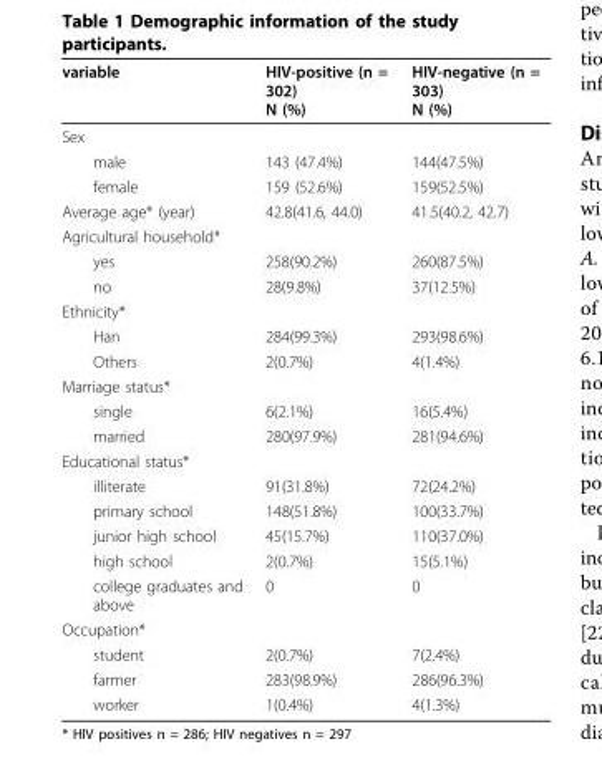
<table><thead><tr><td>variable</td><td>HIV-positive (n = 302) N (%)</td><td>HIV-negative (n = 303) N (%)</td></tr></thead><tbody><tr><td colspan="3">Sex</td></tr><tr><td>male</td><td>143 (47.4%)</td><td>144(47.5%)</td></tr><tr><td>female</td><td>159 (52.6%)</td><td>159(52.5%)</td></tr><tr><td>Average age* (year)</td><td>42.8(41.6, 44.0)</td><td>41.5(40.2, 42.7)</td></tr><tr><td colspan="3">Agricultural household*</td></tr><tr><td>yes</td><td>258(90.2%)</td><td>260(87.5%)</td></tr><tr><td>no</td><td>28(9.8%)</td><td>37(12.5%)</td></tr><tr><td colspan="3">Ethnicity*</td></tr><tr><td>Han</td><td>284(99.3%)</td><td>293(98.6%)</td></tr><tr><td>Others</td><td>2(0.7%)</td><td>4(1.4%)</td></tr><tr><td colspan="3">Marriage status*</td></tr><tr><td>single</td><td>6(2.1%)</td><td>16(5.4%)</td></tr><tr><td>married</td><td>280(97.9%)</td><td>281(94.6%)</td></tr><tr><td colspan="3">Educational status*</td></tr><tr><td>illiterate</td><td>91(31.8%)</td><td>72(24.2%)</td></tr><tr><td>primary school</td><td>148(51.8%)</td><td>100(33.7%)</td></tr><tr><td>junior high school</td><td>45(15.7%)</td><td>110(37.0%)</td></tr><tr><td>high school</td><td>2(0.7%)</td><td>15(5.1%)</td></tr><tr><td>college graduates and above</td><td>0</td><td>0</td></tr><tr><td colspan="3">Occupation*</td></tr><tr><td>student</td><td>2(0.7%)</td><td>7(2.4%)</td></tr><tr><td>farmer</td><td>283(98.9%)</td><td>286(96.3%)</td></tr><tr><td>worker</td><td>1(0.4%)</td><td>4(1.3%)</td></tr></tbody></table>